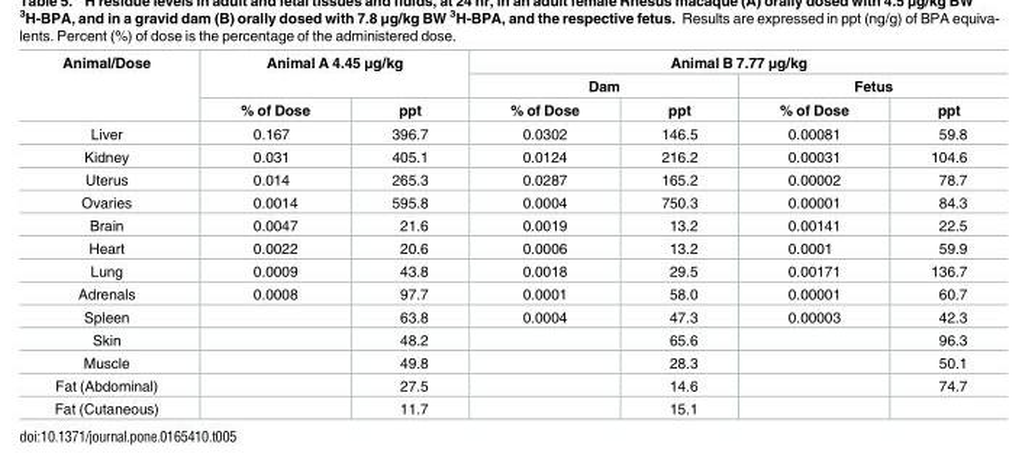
<table><thead><tr><td rowspan="3">Animal/Dose</td><td rowspan="2" colspan="2">Animal A 4.45 μg/kg</td><td colspan="4">Animal B 7.77 μg/kg</td></tr><tr><td colspan="2">Dam</td><td colspan="2">Fetus</td></tr><tr><td>% of Dose</td><td>ppt</td><td>% of Dose</td><td>ppt</td><td>% of Dose</td><td>ppt</td></tr></thead><tbody><tr><td>Liver</td><td>0.167</td><td>396.7</td><td>0.0302</td><td>146.5</td><td>0.00081</td><td>59.8</td></tr><tr><td>Kidney</td><td>0.031</td><td>405.1</td><td>0.0124</td><td>216.2</td><td>0.00031</td><td>104.6</td></tr><tr><td>Uterus</td><td>0.014</td><td>265.3</td><td>0.0287</td><td>165.2</td><td>0.00002</td><td>78.7</td></tr><tr><td>Ovaries</td><td>0.0014</td><td>595.8</td><td>0.0004</td><td>750.3</td><td>0.00001</td><td>84.3</td></tr><tr><td>Brain</td><td>0.0047</td><td>21.6</td><td>0.0019</td><td>13.2</td><td>0.00141</td><td>22.5</td></tr><tr><td>Heart</td><td>0.0022</td><td>20.6</td><td>0.0006</td><td>13.2</td><td>0.0001</td><td>59.9</td></tr><tr><td>Lung</td><td>0.0009</td><td>43.8</td><td>0.0018</td><td>29.5</td><td>0.00171</td><td>136.7</td></tr><tr><td>Adrenals</td><td>0.0008</td><td>97.7</td><td>0.0001</td><td>58.0</td><td>0.00001</td><td>60.7</td></tr><tr><td>Spleen</td><td></td><td>63.8</td><td>0.0004</td><td>47.3</td><td>0.00003</td><td>42.3</td></tr><tr><td>Skin</td><td></td><td>48.2</td><td></td><td>65.6</td><td></td><td>96.3</td></tr><tr><td>Muscle</td><td></td><td>49.8</td><td></td><td>28.3</td><td></td><td>50.1</td></tr><tr><td>Fat (Abdominal)</td><td></td><td>27.5</td><td></td><td>14.6</td><td></td><td>74.7</td></tr><tr><td>Fat (Cutaneous)</td><td></td><td>11.7</td><td></td><td>15.1</td><td></td><td></td></tr></tbody></table>